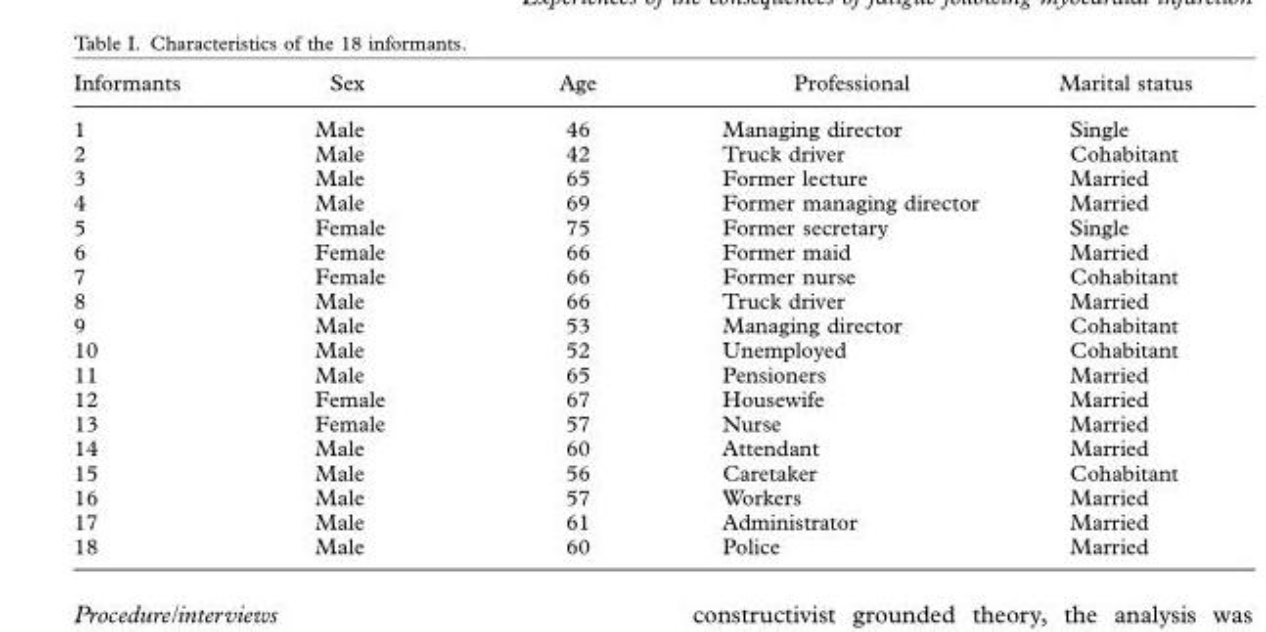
<table><thead><tr><td>Informants</td><td>Sex</td><td>Age</td><td>Professional</td><td>Marital status</td></tr></thead><tbody><tr><td>1</td><td>Male</td><td>46</td><td>Managing director</td><td>Single</td></tr><tr><td>2</td><td>Male</td><td>42</td><td>Truck driver</td><td>Cohabitant</td></tr><tr><td>3</td><td>Male</td><td>65</td><td>Former lecture</td><td>Married</td></tr><tr><td>4</td><td>Male</td><td>69</td><td>Former managing director</td><td>Married</td></tr><tr><td>5</td><td>Female</td><td>75</td><td>Former secretary</td><td>Single</td></tr><tr><td>6</td><td>Female</td><td>66</td><td>Former maid</td><td>Married</td></tr><tr><td>7</td><td>Female</td><td>66</td><td>Former nurse</td><td>Cohabitant</td></tr><tr><td>8</td><td>Male</td><td>66</td><td>Truck driver</td><td>Married</td></tr><tr><td>9</td><td>Male</td><td>53</td><td>Managing director</td><td>Cohabitant</td></tr><tr><td>10</td><td>Male</td><td>52</td><td>Unemployed</td><td>Cohabitant</td></tr><tr><td>11</td><td>Male</td><td>65</td><td>Pensioners</td><td>Married</td></tr><tr><td>12</td><td>Female</td><td>67</td><td>Housewife</td><td>Married</td></tr><tr><td>13</td><td>Female</td><td>57</td><td>Nurse</td><td>Married</td></tr><tr><td>14</td><td>Male</td><td>60</td><td>Attendant</td><td>Married</td></tr><tr><td>15</td><td>Male</td><td>56</td><td>Caretaker</td><td>Cohabitant</td></tr><tr><td>16</td><td>Male</td><td>57</td><td>Workers</td><td>Married</td></tr><tr><td>17</td><td>Male</td><td>61</td><td>Administrator</td><td>Married</td></tr><tr><td>18</td><td>Male</td><td>60</td><td>Police</td><td>Married</td></tr></tbody></table>